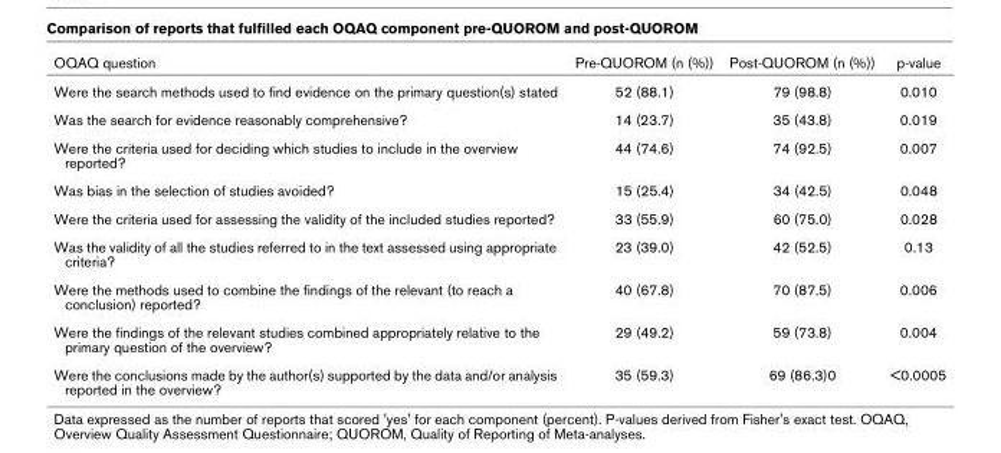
<table><thead><tr><td>OQAQ question</td><td>Pre-QUOROM (n (%))</td><td>Post-QUOROM (n (%))</td><td>p-value</td></tr></thead><tbody><tr><td>Were the search methods used to find evidence on the primary question(s) stated</td><td>52 (88.1)</td><td>79 (98.8)</td><td>0.010</td></tr><tr><td>Was the search for evidence reasonably comprehensive?</td><td>14 (23.7)</td><td>35 (43.8)</td><td>0.019</td></tr><tr><td>Were the criteria used for deciding which studies to include in the overview reported?</td><td>44 (74.6)</td><td>74 (92.5)</td><td>0.007</td></tr><tr><td>Was bias in the selection of studies avoided?</td><td>15 (25.4)</td><td>34 (42.5)</td><td>0.048</td></tr><tr><td>Were the criteria used for assessing the validity of the included studies reported?</td><td>33 (55.9)</td><td>60 (75.0)</td><td>0.028</td></tr><tr><td>Was the validity of all the studies referred to in the text assessed using appropriate criteria?</td><td>23 (39.0)</td><td>42 (52.5)</td><td>0.13</td></tr><tr><td>Were the methods used to combine the findings of the relevant (to reach a conclusion) reported?</td><td>40 (67.8)</td><td>70 (87.5)</td><td>0.006</td></tr><tr><td>Were the findings of the relevant studies combined appropriately relative to the primary question of the overview?</td><td>29 (49.2)</td><td>59 (73.8)</td><td>0.004</td></tr><tr><td>Were the conclusions made by the author(s) supported by the data and/or analysis reported in the overview?</td><td>35 (59.3)</td><td>69 (86.3)0</td><td>&lt;0.0005</td></tr></tbody></table>